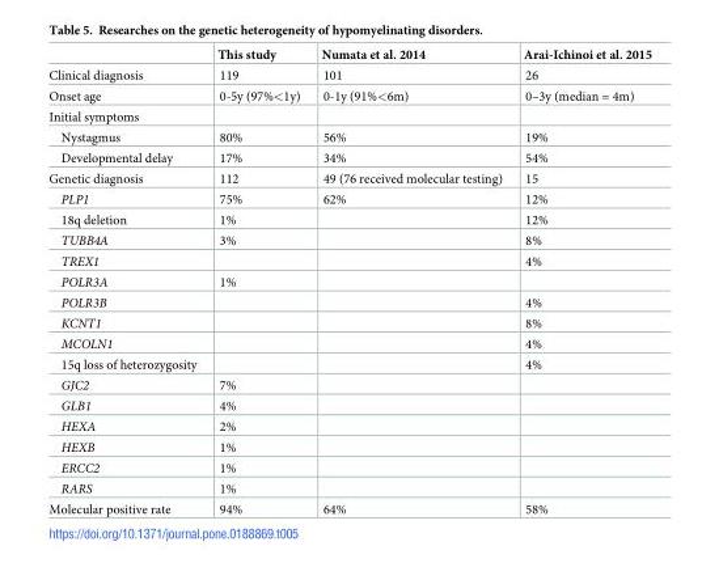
<table><thead><tr><td></td><td>This study</td><td>Numata et al. 2014</td><td>Arai-Ichinoi et al. 2015</td></tr></thead><tbody><tr><td>Clinical diagnosis</td><td>119</td><td>101</td><td>26</td></tr><tr><td>Onset age</td><td>0-5y (97%&lt;1y)</td><td>0-1y (91%&lt;6m)</td><td>0–3y (median = 4m)</td></tr><tr><td colspan="4">Initial symptoms</td></tr><tr><td>Nystagmus</td><td>80%</td><td>56%</td><td>19%</td></tr><tr><td>Developmental delay</td><td>17%</td><td>34%</td><td>54%</td></tr><tr><td>Genetic diagnosis</td><td>112</td><td>49 (76 received molecular testing)</td><td>15</td></tr><tr><td>PLP1</td><td>75%</td><td>62%</td><td>12%</td></tr><tr><td>18q deletion</td><td>1%</td><td></td><td>12%</td></tr><tr><td>TUBB4A</td><td>3%</td><td></td><td>8%</td></tr><tr><td>TREX1</td><td></td><td></td><td>4%</td></tr><tr><td>POLR3A</td><td>1%</td><td></td><td></td></tr><tr><td>POLR3B</td><td></td><td></td><td>4%</td></tr><tr><td>KCNT1</td><td></td><td></td><td>8%</td></tr><tr><td>MCOLN1</td><td></td><td></td><td>4%</td></tr><tr><td>15q loss of heterozygosity</td><td></td><td></td><td>4%</td></tr><tr><td>GJC2</td><td>7%</td><td></td><td></td></tr><tr><td>GLB1</td><td>4%</td><td></td><td></td></tr><tr><td>HEXA</td><td>2%</td><td></td><td></td></tr><tr><td>HEXB</td><td>1%</td><td></td><td></td></tr><tr><td>ERCC2</td><td>1%</td><td></td><td></td></tr><tr><td>RARS</td><td>1%</td><td></td><td></td></tr><tr><td>Molecular positive rate</td><td>94%</td><td>64%</td><td>58%</td></tr></tbody></table>